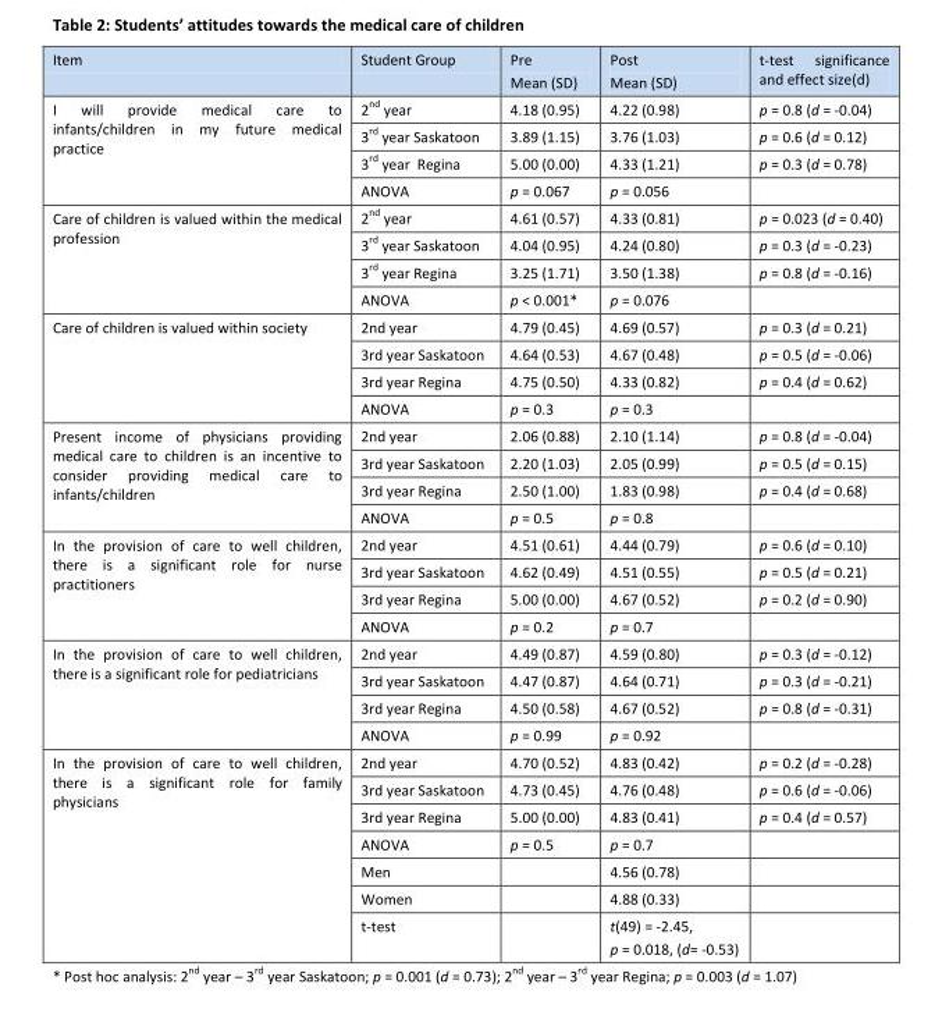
<table><thead><tr><td>Item</td><td>Student Group</td><td>Pre Mean (SD)</td><td>Post Mean (SD)</td><td>t-test significance and effect size(d)</td></tr></thead><tbody><tr><td rowspan="4">I will provide medical care to infants/children in my future medical practice</td><td>2nd year</td><td>4.18 (0.95)</td><td>4.22 (0.98)</td><td>p = 0.8 (d = -0.04)</td></tr><tr><td>3rd year Saskatoon</td><td>3.89 (1.15)</td><td>3.76 (1.03)</td><td>p = 0.6 (d = 0.12)</td></tr><tr><td>3rd year Regina</td><td>5.00 (0.00)</td><td>4.33 (1.21)</td><td>p = 0.3 (d = 0.78)</td></tr><tr><td>ANOVA</td><td>p = 0.067</td><td>p = 0.056</td><td></td></tr><tr><td rowspan="4">Care of children is valued within the medical profession</td><td>2nd year</td><td>4.61 (0.57)</td><td>4.33 (0.81)</td><td>p = 0.023 (d = 0.40)</td></tr><tr><td>3rd year Saskatoon</td><td>4.04 (0.95)</td><td>4.24 (0.80)</td><td>p = 0.3 (d = -0.23)</td></tr><tr><td>3rd year Regina</td><td>3.25 (1.71)</td><td>3.50 (1.38)</td><td>p = 0.8 (d = -0.16)</td></tr><tr><td>ANOVA</td><td>p &lt; 0.001*</td><td>p = 0.076</td><td></td></tr><tr><td rowspan="4">Care of children is valued within society</td><td>2nd year</td><td>4.79 (0.45)</td><td>4.69 (0.57)</td><td>p = 0.3 (d = 0.21)</td></tr><tr><td>3rd year Saskatoon</td><td>4.64 (0.53)</td><td>4.67 (0.48)</td><td>p = 0.5 (d = -0.06)</td></tr><tr><td>3rd year Regina</td><td>4.75 (0.50)</td><td>4.33 (0.82)</td><td>p = 0.4 (d = 0.62)</td></tr><tr><td>ANOVA</td><td>p = 0.3</td><td>p = 0.3</td><td></td></tr><tr><td rowspan="4">Present income of physicians providing medical care to children is an incentive to consider providing medical care to infants/children</td><td>2nd year</td><td>2.06 (0.88)</td><td>2.10 (1.14)</td><td>p = 0.8 (d = -0.04)</td></tr><tr><td>3rd year Saskatoon</td><td>2.20 (1.03)</td><td>2.05 (0.99)</td><td>p = 0.5 (d = 0.15)</td></tr><tr><td>3rd year Regina</td><td>2.50 (1.00)</td><td>1.83 (0.98)</td><td>p = 0.4 (d = 0.68)</td></tr><tr><td>ANOVA</td><td>p = 0.5</td><td>p = 0.8</td><td></td></tr><tr><td rowspan="4">In the provision of care to well children, there is a significant role for nurse practitioners</td><td>2nd year</td><td>4.51 (0.61)</td><td>4.44 (0.79)</td><td>p = 0.6 (d = 0.10)</td></tr><tr><td>3rd year Saskatoon</td><td>4.62 (0.49)</td><td>4.51 (0.55)</td><td>p = 0.5 (d = 0.21)</td></tr><tr><td>3rd year Regina</td><td>5.00 (0.00)</td><td>4.67 (0.52)</td><td>p = 0.2 (d = 0.90)</td></tr><tr><td>ANOVA</td><td>p = 0.2</td><td>p = 0.7</td><td></td></tr><tr><td rowspan="4">In the provision of care to well children, there is a significant role for pediatricians</td><td>2nd year</td><td>4.49 (0.87)</td><td>4.59 (0.80)</td><td>p = 0.3 (d = -0.12)</td></tr><tr><td>3rd year Saskatoon</td><td>4.47 (0.87)</td><td>4.64 (0.71)</td><td>p = 0.3 (d = -0.21)</td></tr><tr><td>3rd year Regina</td><td>4.50 (0.58)</td><td>4.67 (0.52)</td><td>p = 0.8 (d = -0.31)</td></tr><tr><td>ANOVA</td><td>p = 0.99</td><td>p = 0.92</td><td></td></tr><tr><td rowspan="7">In the provision of care to well children, there is a significant role for family physicians</td><td>2nd year</td><td>4.70 (0.52)</td><td>4.83 (0.42)</td><td>p = 0.2 (d = -0.28)</td></tr><tr><td>3rd year Saskatoon</td><td>4.73 (0.45)</td><td>4.76 (0.48)</td><td>p = 0.6 (d = -0.06)</td></tr><tr><td>3rd year Regina</td><td>5.00 (0.00)</td><td>4.83 (0.41)</td><td>p = 0.4 (d = 0.57)</td></tr><tr><td>ANOVA</td><td>p = 0.5</td><td>p = 0.7</td><td></td></tr><tr><td>Men</td><td></td><td>4.56 (0.78)</td><td></td></tr><tr><td>Women</td><td></td><td>4.88 (0.33)</td><td></td></tr><tr><td>t-test</td><td></td><td>t(49) = -2.45, p = 0.018, (d= -0.53)</td><td></td></tr></tbody></table>